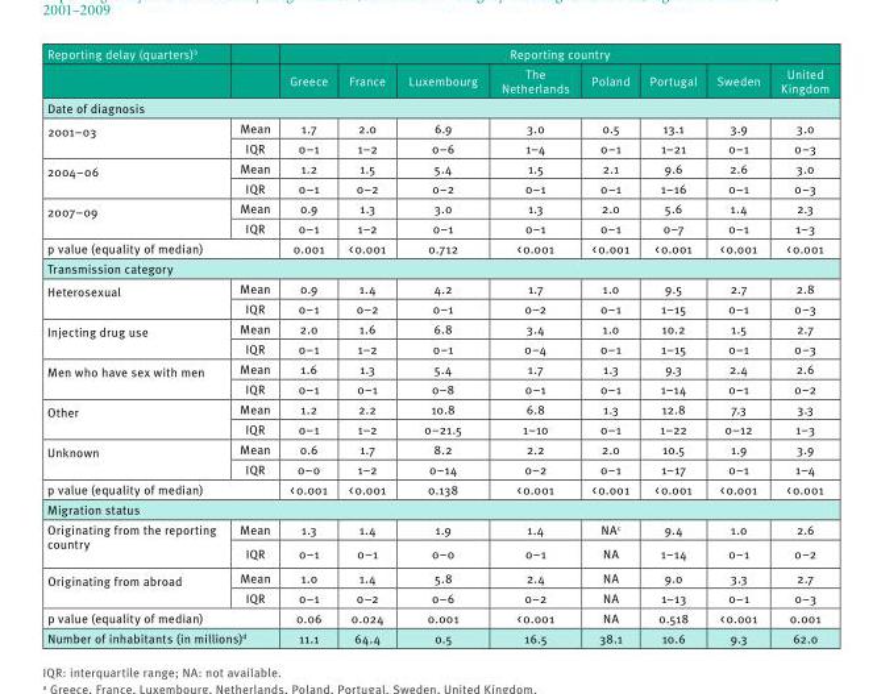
<table><thead><tr><td rowspan="2">Reporting delay (quarters)<sup>b</sup></td><td rowspan="2"></td><td colspan="8">Reporting country</td></tr><tr><td>Greece</td><td>France</td><td>Luxembourg</td><td>The Netherlands</td><td>Poland</td><td>Portugal</td><td>Sweden</td><td>United Kingdom</td></tr></thead><tbody><tr><td colspan="10">Date of diagnosis</td></tr><tr><td rowspan="2">2001–03</td><td>Mean</td><td>1.7</td><td>2.0</td><td>6.9</td><td>3.0</td><td>0.5</td><td>13.1</td><td>3.9</td><td>3.0</td></tr><tr><td>IQR</td><td>0–1</td><td>1–2</td><td>0–6</td><td>1–4</td><td>0–1</td><td>1–21</td><td>0–1</td><td>0–3</td></tr><tr><td rowspan="2">2004–06</td><td>Mean</td><td>1.2</td><td>1.5</td><td>5.4</td><td>1.5</td><td>2.1</td><td>9.6</td><td>2.6</td><td>3.0</td></tr><tr><td>IQR</td><td>0–1</td><td>0–2</td><td>0–2</td><td>0–1</td><td>0–1</td><td>1–16</td><td>0–1</td><td>0–3</td></tr><tr><td rowspan="2">2007–09</td><td>Mean</td><td>0.9</td><td>1.3</td><td>3.0</td><td>1.3</td><td>2.0</td><td>5.6</td><td>1.4</td><td>2.3</td></tr><tr><td>IQR</td><td>0–1</td><td>1–2</td><td>0–1</td><td>0–1</td><td>0–1</td><td>0–7</td><td>0–1</td><td>1–3</td></tr><tr><td colspan="2">p value (equality of median)</td><td>0.001</td><td>&lt; 0.001</td><td>0.712</td><td>&lt; 0.001</td><td>&lt; 0.001</td><td>&lt; 0.001</td><td>&lt; 0.001</td><td>&lt; 0.001</td></tr><tr><td colspan="10">Transmission category</td></tr><tr><td rowspan="2">Heterosexual</td><td>Mean</td><td>0.9</td><td>1.4</td><td>4.2</td><td>1.7</td><td>1.0</td><td>9.5</td><td>2.7</td><td>2.8</td></tr><tr><td>IQR</td><td>0–1</td><td>0–2</td><td>0–1</td><td>0–2</td><td>0–1</td><td>1–15</td><td>0–1</td><td>0–3</td></tr><tr><td rowspan="2">Injecting drug use</td><td>Mean</td><td>2.0</td><td>1.6</td><td>6.8</td><td>3.4</td><td>1.0</td><td>10.2</td><td>1.5</td><td>2.7</td></tr><tr><td>IQR</td><td>0–1</td><td>1–2</td><td>0–1</td><td>0–4</td><td>0–1</td><td>1–15</td><td>0–1</td><td>0–3</td></tr><tr><td rowspan="2">Men who have sex with men</td><td>Mean</td><td>1.6</td><td>1.3</td><td>5.4</td><td>1.7</td><td>1.3</td><td>9.3</td><td>2.4</td><td>2.6</td></tr><tr><td>IQR</td><td>0–1</td><td>0–1</td><td>0–8</td><td>0–1</td><td>0–1</td><td>1–14</td><td>0–1</td><td>0–2</td></tr><tr><td rowspan="2">Other</td><td>Mean</td><td>1.2</td><td>2.2</td><td>10.8</td><td>6.8</td><td>1.3</td><td>12.8</td><td>7.3</td><td>3.3</td></tr><tr><td>IQR</td><td>0–1</td><td>1–2</td><td>0–21.5</td><td>1–10</td><td>0–1</td><td>1–22</td><td>0–12</td><td>1–3</td></tr><tr><td rowspan="2">Unknown</td><td>Mean</td><td>0.6</td><td>1.7</td><td>8.2</td><td>2.2</td><td>2.0</td><td>10.5</td><td>1.9</td><td>3.9</td></tr><tr><td>IQR</td><td>0–0</td><td>1–2</td><td>0–14</td><td>0–2</td><td>0–1</td><td>1–17</td><td>0–1</td><td>1–4</td></tr><tr><td colspan="2">p value (equality of median)</td><td>&lt; 0.001</td><td>&lt; 0.001</td><td>0.138</td><td>&lt; 0.001</td><td>&lt; 0.001</td><td>&lt; 0.001</td><td>&lt; 0.001</td><td>&lt; 0.001</td></tr><tr><td colspan="10">Migration status</td></tr><tr><td rowspan="2">Originating from the reporting country</td><td>Mean</td><td>1.3</td><td>1.4</td><td>1.9</td><td>1.4</td><td>NA<sup>c</sup></td><td>9.4</td><td>1.0</td><td>2.6</td></tr><tr><td>IQR</td><td>0–1</td><td>0–1</td><td>0–0</td><td>0–1</td><td>NA</td><td>1–14</td><td>0–1</td><td>0–2</td></tr><tr><td rowspan="2">Originating from abroad</td><td>Mean</td><td>1.0</td><td>1.4</td><td>5.8</td><td>2.4</td><td>NA</td><td>9.0</td><td>3.3</td><td>2.7</td></tr><tr><td>IQR</td><td>0–1</td><td>0–2</td><td>0–6</td><td>0–2</td><td>NA</td><td>1–13</td><td>0–1</td><td>0–3</td></tr><tr><td colspan="2">p value (equality of median)</td><td>0.06</td><td>0.024</td><td>0.001</td><td>&lt; 0.001</td><td>NA</td><td>0.518</td><td>&lt; 0.001</td><td>0.001</td></tr><tr><td colspan="2">Number of inhabitants (in millions)<sup>d</sup></td><td>11.1</td><td>64.4</td><td>0.5</td><td>16.5</td><td>38.1</td><td>10.6</td><td>9.3</td><td>62.0</td></tr></tbody></table>